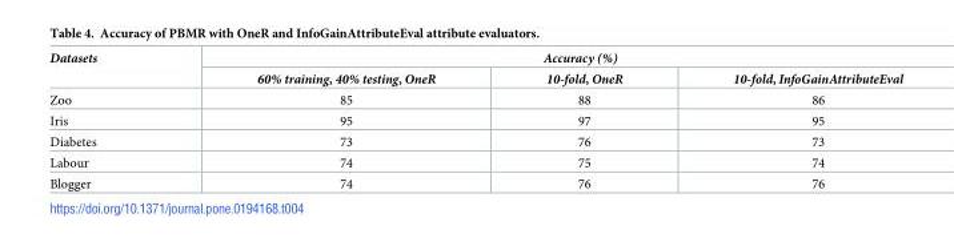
<table><thead><tr><td rowspan="2">Datasets</td><td colspan="3">Accuracy (%)</td></tr><tr><td>60% training, 40% testing, OneR</td><td>10-fold, OneR</td><td>10-fold, InfoGainAttributeEval</td></tr></thead><tbody><tr><td>Zoo</td><td>85</td><td>88</td><td>86</td></tr><tr><td>Iris</td><td>95</td><td>97</td><td>95</td></tr><tr><td>Diabetes</td><td>73</td><td>76</td><td>73</td></tr><tr><td>Labour</td><td>74</td><td>75</td><td>74</td></tr><tr><td>Blogger</td><td>74</td><td>76</td><td>76</td></tr></tbody></table>